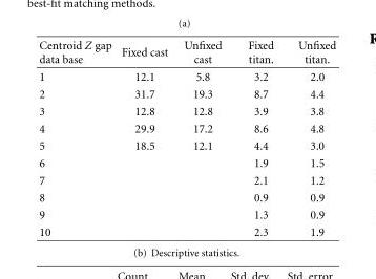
<table><thead><tr><td>Centroid Z gap data base</td><td>Fixed cast</td><td>Unfixed cast</td><td>Fixed titan.</td><td>Unfixed titan.</td></tr></thead><tbody><tr><td>1</td><td>12.1</td><td>5.8</td><td>3.2</td><td>2.0</td></tr><tr><td>2</td><td>31.7</td><td>19.3</td><td>8.7</td><td>4.4</td></tr><tr><td>3</td><td>12.8</td><td>12.8</td><td>3.9</td><td>3.8</td></tr><tr><td>4</td><td>29.9</td><td>17.2</td><td>8.6</td><td>4.8</td></tr><tr><td>5</td><td>18.5</td><td>12.1</td><td>4.4</td><td>3.0</td></tr><tr><td>6</td><td></td><td></td><td>1.9</td><td>1.5</td></tr><tr><td>7</td><td></td><td></td><td>2.1</td><td>1.2</td></tr><tr><td>8</td><td></td><td></td><td>0.9</td><td>0.9</td></tr><tr><td>9</td><td></td><td></td><td>1.3</td><td>0.9</td></tr><tr><td>10</td><td></td><td></td><td>2.3</td><td>1.9</td></tr></tbody></table>